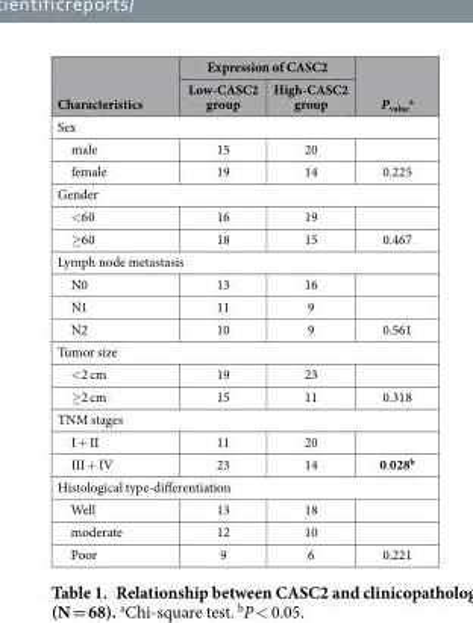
<table><thead><tr><td rowspan="2">Characteristics</td><td colspan="2">Expression of CASC2</td><td rowspan="2">P<sub>value</sub> <sup>a</sup></td></tr><tr><td>Low-CASC2 group</td><td>High-CASC2 group</td></tr></thead><tbody><tr><td colspan="4">Sex</td></tr><tr><td>male</td><td>15</td><td>20</td><td></td></tr><tr><td>female</td><td>19</td><td>14</td><td>0.225</td></tr><tr><td colspan="4">Gender</td></tr><tr><td>&lt; 60</td><td>16</td><td>19</td><td></td></tr><tr><td>≥ 60</td><td>18</td><td>15</td><td>0.467</td></tr><tr><td colspan="4">Lymph node metastasis</td></tr><tr><td>N0</td><td>13</td><td>16</td><td></td></tr><tr><td>N1</td><td>11</td><td>9</td><td></td></tr><tr><td>N2</td><td>10</td><td>9</td><td>0.561</td></tr><tr><td colspan="4">Tumor size</td></tr><tr><td>&lt; 2 cm</td><td>19</td><td>23</td><td></td></tr><tr><td>≥ 2 cm</td><td>15</td><td>11</td><td>0.318</td></tr><tr><td colspan="4">TNM stages</td></tr><tr><td>I + II</td><td>11</td><td>20</td><td></td></tr><tr><td>III + IV</td><td>23</td><td>14</td><td>0.028<sup>b</sup></td></tr><tr><td colspan="4">Histological type-differentiation</td></tr><tr><td>Well</td><td>13</td><td>18</td><td></td></tr><tr><td>moderate</td><td>12</td><td>10</td><td></td></tr><tr><td>Poor</td><td>9</td><td>6</td><td>0.221</td></tr></tbody></table>